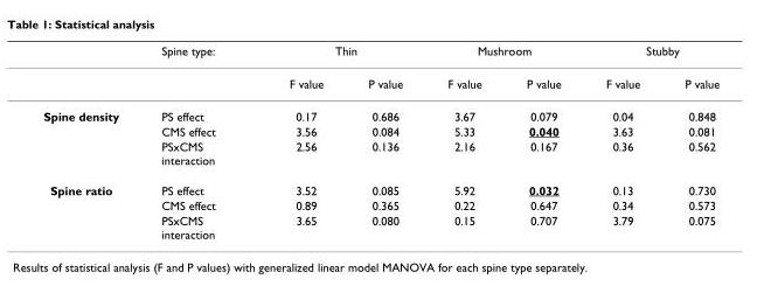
<table><thead><tr><td rowspan="2"></td><td rowspan="2">Spine type:</td><td colspan="2">Thin</td><td colspan="2">Mushroom</td><td colspan="2">Stubby</td></tr><tr><td>F value</td><td>P value</td><td>F value</td><td>P value</td><td>F value</td><td>P value</td></tr></thead><tbody><tr><td rowspan="3">Spine density</td><td>PS effect</td><td>0.17</td><td>0.686</td><td>3.67</td><td>0.079</td><td>0.04</td><td>0.848</td></tr><tr><td>CMS effect</td><td>3.56</td><td>0.084</td><td>5.33</td><td>0.040</td><td>3.63</td><td>0.081</td></tr><tr><td>PSxCMS interaction</td><td>2.56</td><td>0.136</td><td>2.16</td><td>0.167</td><td>0.36</td><td>0.562</td></tr><tr><td rowspan="3">Spine ratio</td><td>PS effect</td><td>3.52</td><td>0.085</td><td>5.92</td><td>0.032</td><td>0.13</td><td>0.730</td></tr><tr><td>CMS effect</td><td>0.89</td><td>0.365</td><td>0.22</td><td>0.647</td><td>0.34</td><td>0.573</td></tr><tr><td>PSxCMS interaction</td><td>3.65</td><td>0.080</td><td>0.15</td><td>0.707</td><td>3.79</td><td>0.075</td></tr></tbody></table>